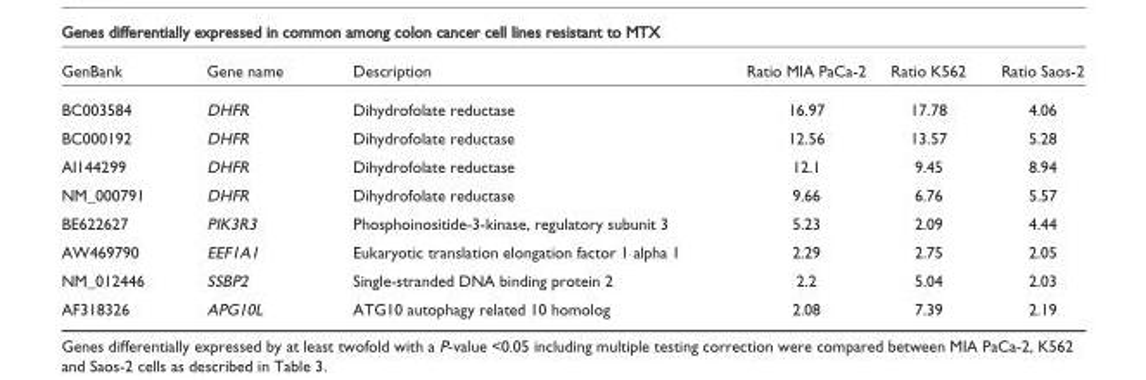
<table><thead><tr><td>GenBank</td><td>Gene name</td><td>Description</td><td>Ratio MIA PaCa-2</td><td>Ratio K562</td><td>Ratio Saos-2</td></tr></thead><tbody><tr><td>BC003584</td><td>DHFR</td><td>Dihydrofolate reductase</td><td>16.97</td><td>17.78</td><td>4.06</td></tr><tr><td>BC000192</td><td>DHFR</td><td>Dihydrofolate reductase</td><td>12.56</td><td>13.57</td><td>5.28</td></tr><tr><td>AI144299</td><td>DHFR</td><td>Dihydrofolate reductase</td><td>12.1</td><td>9.45</td><td>8.94</td></tr><tr><td>NM_000791</td><td>DHFR</td><td>Dihydrofolate reductase</td><td>9.66</td><td>6.76</td><td>5.57</td></tr><tr><td>BE622627</td><td>PIK3R3</td><td>Phosphoinositide-3-kinase, regulatory subunit 3</td><td>5.23</td><td>2.09</td><td>4.44</td></tr><tr><td>AW469790</td><td>EEF1A1</td><td>Eukaryotic translation elongation factor 1 alpha 1</td><td>2.29</td><td>2.75</td><td>2.05</td></tr><tr><td>NM_012446</td><td>SSBP2</td><td>Single-stranded DNA binding protein 2</td><td>2.2</td><td>5.04</td><td>2.03</td></tr><tr><td>AF318326</td><td>APG10L</td><td>ATG10 autophagy related 10 homolog</td><td>2.08</td><td>7.39</td><td>2.19</td></tr></tbody></table>